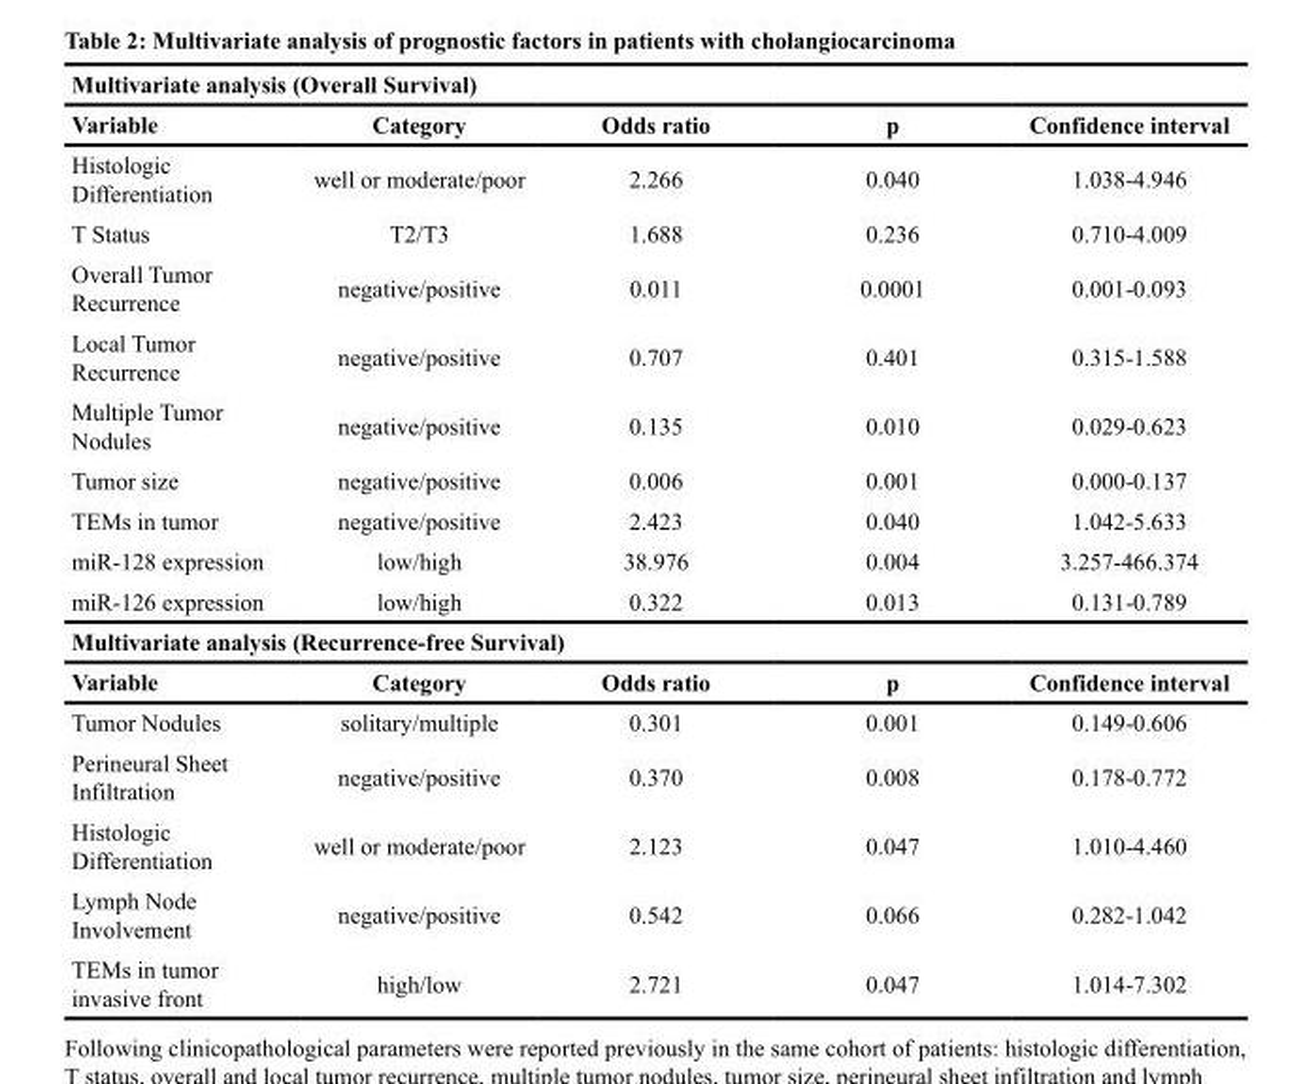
<table><thead><tr><td colspan="5">Multivariate analysis (Overall Survival)</td></tr><tr><td>Variable</td><td>Category</td><td>Odds ratio</td><td>p</td><td>Confidence interval</td></tr></thead><tbody><tr><td>Histologic Differentiation</td><td>well or moderate/poor</td><td>2.266</td><td>0.040</td><td>1.038-4.946</td></tr><tr><td>T Status</td><td>T2/T3</td><td>1.688</td><td>0.236</td><td>0.710-4.009</td></tr><tr><td>Overall Tumor Recurrence</td><td>negative/positive</td><td>0.011</td><td>0.0001</td><td>0.001-0.093</td></tr><tr><td>Local Tumor Recurrence</td><td>negative/positive</td><td>0.707</td><td>0.401</td><td>0.315-1.588</td></tr><tr><td>Multiple Tumor Nodules</td><td>negative/positive</td><td>0.135</td><td>0.010</td><td>0.029-0.623</td></tr><tr><td>Tumor size</td><td>negative/positive</td><td>0.006</td><td>0.001</td><td>0.000-0.137</td></tr><tr><td>TEMs in tumor</td><td>negative/positive</td><td>2.423</td><td>0.040</td><td>1.042-5.633</td></tr><tr><td>miR-128 expression</td><td>low/high</td><td>38.976</td><td>0.004</td><td>3.257-466.374</td></tr><tr><td>miR-126 expression</td><td>low/high</td><td>0.322</td><td>0.013</td><td>0.131-0.789</td></tr><tr><td colspan="5">Multivariate analysis (Recurrence-free Survival)</td></tr><tr><td>Variable</td><td>Category</td><td>Odds ratio</td><td>p</td><td>Confidence interval</td></tr><tr><td>Tumor Nodules</td><td>solitary/multiple</td><td>0.301</td><td>0.001</td><td>0.149-0.606</td></tr><tr><td>Perineural Sheet Infiltration</td><td>negative/positive</td><td>0.370</td><td>0.008</td><td>0.178-0.772</td></tr><tr><td>Histologic Differentiation</td><td>well or moderate/poor</td><td>2.123</td><td>0.047</td><td>1.010-4.460</td></tr><tr><td>Lymph Node Involvement</td><td>negative/positive</td><td>0.542</td><td>0.066</td><td>0.282-1.042</td></tr><tr><td>TEMs in tumor invasive front</td><td>high/low</td><td>2.721</td><td>0.047</td><td>1.014-7.302</td></tr></tbody></table>